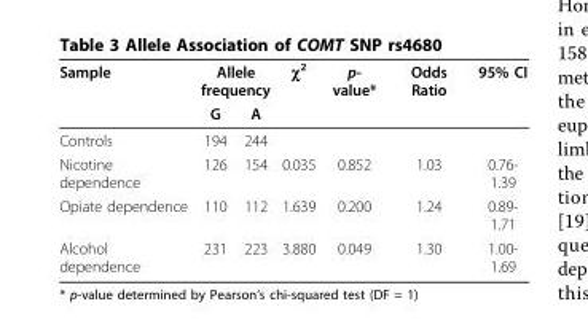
<table><thead><tr><td rowspan="2">Sample</td><td colspan="2">Allele frequency</td><td rowspan="2">χ<sup>2</sup></td><td rowspan="2">p- value*</td><td rowspan="2">Odds Ratio</td><td rowspan="2">95% CI</td></tr><tr><td>G</td><td>A</td></tr></thead><tbody><tr><td>Controls</td><td>194</td><td>244</td><td></td><td></td><td></td><td></td></tr><tr><td>Nicotine dependence</td><td>126</td><td>154</td><td>0.035</td><td>0.852</td><td>1.03</td><td>0.76- 1.39</td></tr><tr><td>Opiate dependence</td><td>110</td><td>112</td><td>1.639</td><td>0.200</td><td>1.24</td><td>0.89- 1.71</td></tr><tr><td>Alcohol dependence</td><td>231</td><td>223</td><td>3.880</td><td>0.049</td><td>1.30</td><td>1.00- 1.69</td></tr></tbody></table>